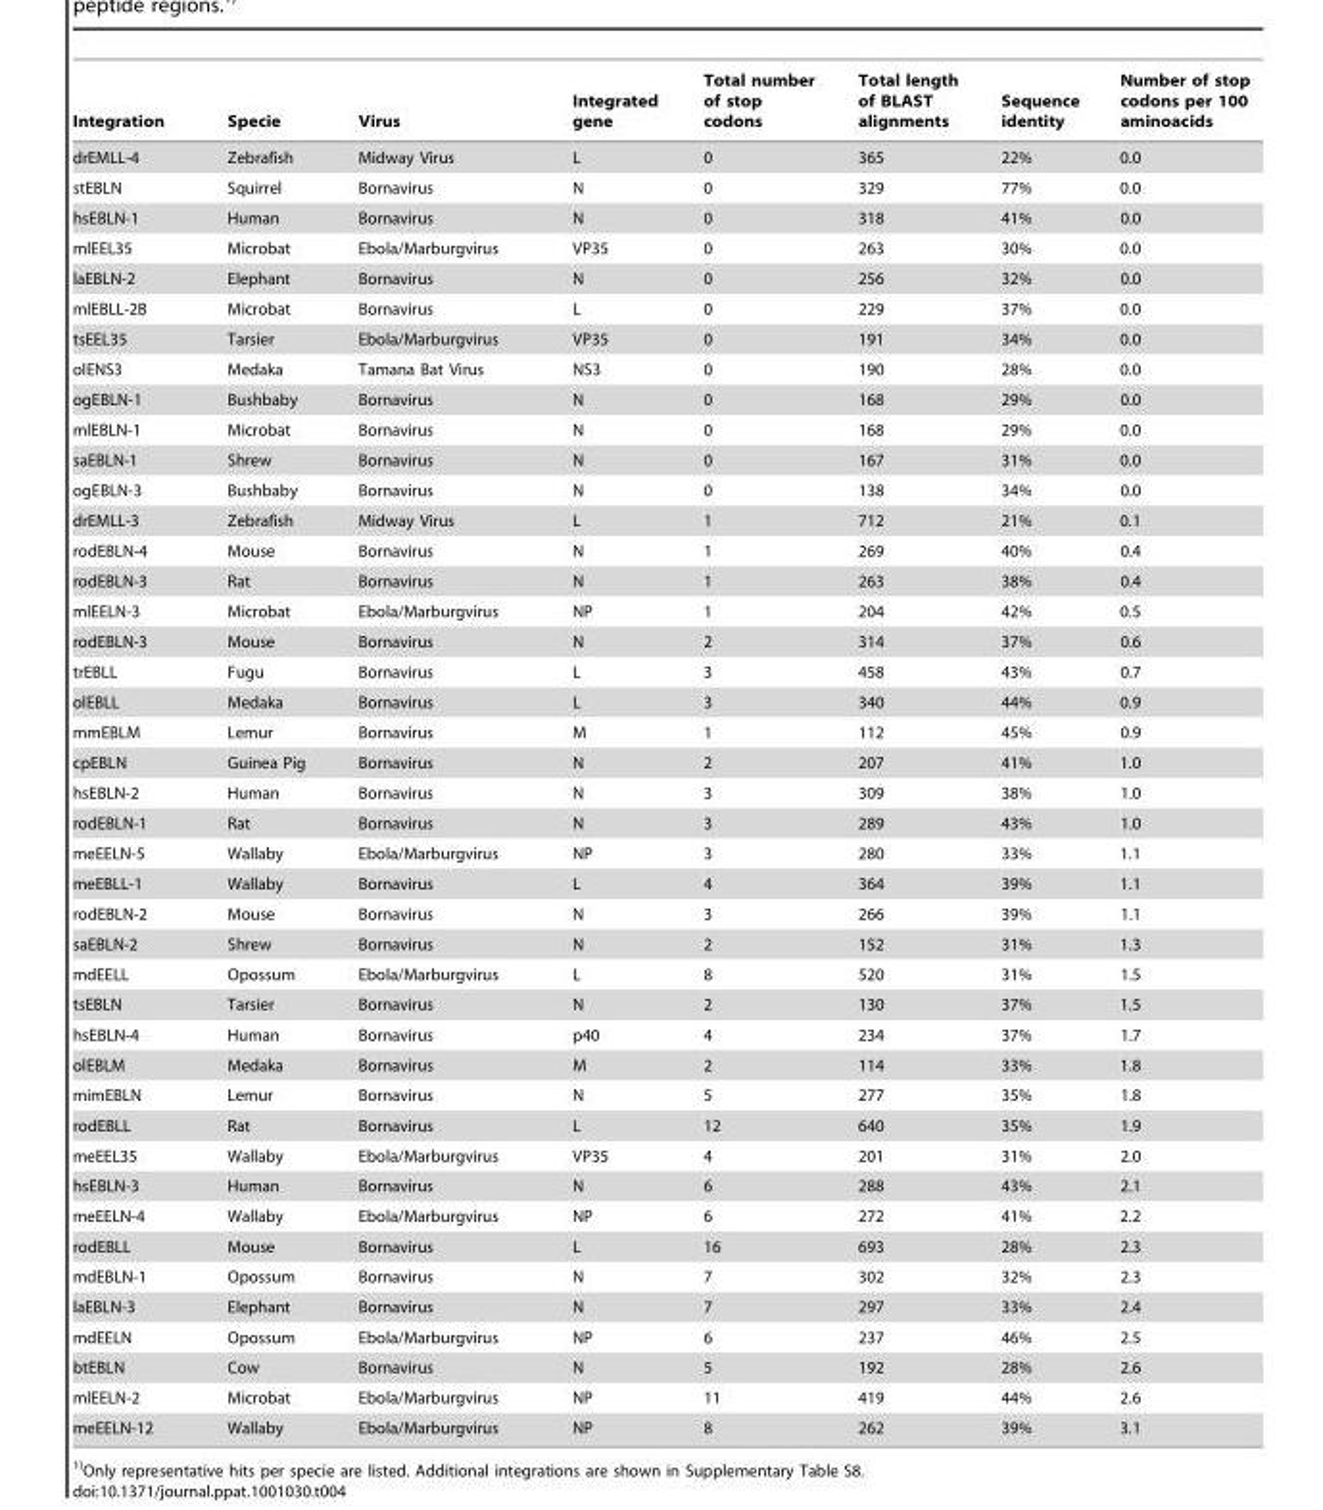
<table><thead><tr><td>Integration</td><td>Specie</td><td>Virus</td><td>Integrated gene</td><td>Total number of stop codons</td><td>Total length of BLAST alignments</td><td>Sequence identity</td><td>Number of stop codons per 100 aminoacids</td></tr></thead><tbody><tr><td>drEMLL-4</td><td>Zebrafish</td><td>Midway Virus</td><td>L</td><td>0</td><td>365</td><td>22%</td><td>0.0</td></tr><tr><td>stEBLN</td><td>Squirrel</td><td>Bornavirus</td><td>N</td><td>0</td><td>329</td><td>77%</td><td>0.0</td></tr><tr><td>hsEBLN-1</td><td>Human</td><td>Bornavirus</td><td>N</td><td>0</td><td>318</td><td>41%</td><td>0.0</td></tr><tr><td>mlEEL35</td><td>Microbat</td><td>Ebola/Marburgvirus</td><td>VP35</td><td>0</td><td>263</td><td>30%</td><td>0.0</td></tr><tr><td>laEBLN-2</td><td>Elephant</td><td>Bornavirus</td><td>N</td><td>0</td><td>256</td><td>32%</td><td>0.0</td></tr><tr><td>mlEBLL-2B</td><td>Microbat</td><td>Bornavirus</td><td>L</td><td>0</td><td>229</td><td>37%</td><td>0.0</td></tr><tr><td>tsEEL35</td><td>Tarsier</td><td>Ebola/Marburgvirus</td><td>VP35</td><td>0</td><td>191</td><td>34%</td><td>0.0</td></tr><tr><td>olENS3</td><td>Medaka</td><td>Tamana Bat Virus</td><td>NS3</td><td>0</td><td>190</td><td>28%</td><td>0.0</td></tr><tr><td>ogEBLN-1</td><td>Bushbaby</td><td>Bornavirus</td><td>N</td><td>0</td><td>168</td><td>29%</td><td>0.0</td></tr><tr><td>mlEBLN-1</td><td>Microbat</td><td>Bornavirus</td><td>N</td><td>0</td><td>168</td><td>29%</td><td>0.0</td></tr><tr><td>saEBLN-1</td><td>Shrew</td><td>Bornavirus</td><td>N</td><td>0</td><td>167</td><td>31%</td><td>0.0</td></tr><tr><td>ogEBLN-3</td><td>Bushbaby</td><td>Bornavirus</td><td>N</td><td>0</td><td>138</td><td>34%</td><td>0.0</td></tr><tr><td>drEMLL-3</td><td>Zebrafish</td><td>Midway Virus</td><td>L</td><td>1</td><td>712</td><td>21%</td><td>0.1</td></tr><tr><td>rodEBLN-4</td><td>Mouse</td><td>Bornavirus</td><td>N</td><td>1</td><td>269</td><td>40%</td><td>0.4</td></tr><tr><td>rodEBLN-3</td><td>Rat</td><td>Bornavirus</td><td>N</td><td>1</td><td>263</td><td>38%</td><td>0.4</td></tr><tr><td>mlEELN-3</td><td>Microbat</td><td>Ebola/Marburgvirus</td><td>NP</td><td>1</td><td>204</td><td>42%</td><td>0.5</td></tr><tr><td>rodEBLN-3</td><td>Mouse</td><td>Bornavirus</td><td>N</td><td>2</td><td>314</td><td>37%</td><td>0.6</td></tr><tr><td>trEBLL</td><td>Fugu</td><td>Bornavirus</td><td>L</td><td>3</td><td>458</td><td>43%</td><td>0.7</td></tr><tr><td>olEBLL</td><td>Medaka</td><td>Bornavirus</td><td>L</td><td>3</td><td>340</td><td>44%</td><td>0.9</td></tr><tr><td>mmEBLM</td><td>Lemur</td><td>Bornavirus</td><td>M</td><td>1</td><td>112</td><td>45%</td><td>0.9</td></tr><tr><td>cpEBLN</td><td>Guinea Pig</td><td>Bornavirus</td><td>N</td><td>2</td><td>207</td><td>41%</td><td>1.0</td></tr><tr><td>hsEBLN-2</td><td>Human</td><td>Bornavirus</td><td>N</td><td>3</td><td>309</td><td>38%</td><td>1.0</td></tr><tr><td>rodEBLN-1</td><td>Rat</td><td>Bornavirus</td><td>N</td><td>3</td><td>289</td><td>43%</td><td>1.0</td></tr><tr><td>meEELN-5</td><td>Wallaby</td><td>Ebola/Marburgvirus</td><td>NP</td><td>3</td><td>280</td><td>33%</td><td>1.1</td></tr><tr><td>meEBLL-1</td><td>Wallaby</td><td>Bornavirus</td><td>L</td><td>4</td><td>364</td><td>39%</td><td>1.1</td></tr><tr><td>rodEBLN-2</td><td>Mouse</td><td>Bornavirus</td><td>N</td><td>3</td><td>266</td><td>39%</td><td>1.1</td></tr><tr><td>saEBLN-2</td><td>Shrew</td><td>Bornavirus</td><td>N</td><td>2</td><td>152</td><td>31%</td><td>1.3</td></tr><tr><td>mdEELL</td><td>Opossum</td><td>Ebola/Marburgvirus</td><td>L</td><td>8</td><td>520</td><td>31%</td><td>1.5</td></tr><tr><td>tsEBLN</td><td>Tarsier</td><td>Bornavirus</td><td>N</td><td>2</td><td>130</td><td>37%</td><td>1.5</td></tr><tr><td>hsEBLN-4</td><td>Human</td><td>Bornavirus</td><td>p40</td><td>4</td><td>234</td><td>37%</td><td>1.7</td></tr><tr><td>olEBLM</td><td>Medaka</td><td>Bornavirus</td><td>M</td><td>2</td><td>114</td><td>33%</td><td>1.8</td></tr><tr><td>mimEBLN</td><td>Lemur</td><td>Bornavirus</td><td>N</td><td>5</td><td>277</td><td>35%</td><td>1.8</td></tr><tr><td>rodEBLL</td><td>Rat</td><td>Bornavirus</td><td>L</td><td>12</td><td>640</td><td>35%</td><td>1.9</td></tr><tr><td>meEEL35</td><td>Wallaby</td><td>Ebola/Marburgvirus</td><td>VP35</td><td>4</td><td>201</td><td>31%</td><td>2.0</td></tr><tr><td>hsEBLN-3</td><td>Human</td><td>Bornavirus</td><td>N</td><td>6</td><td>288</td><td>43%</td><td>2.1</td></tr><tr><td>meEELN-4</td><td>Wallaby</td><td>Ebola/Marburgvirus</td><td>NP</td><td>6</td><td>272</td><td>41%</td><td>2.2</td></tr><tr><td>rodEBLL</td><td>Mouse</td><td>Bornavirus</td><td>L</td><td>16</td><td>693</td><td>28%</td><td>2.3</td></tr><tr><td>mdEBLN-1</td><td>Opossum</td><td>Bornavirus</td><td>N</td><td>7</td><td>302</td><td>32%</td><td>2.3</td></tr><tr><td>laEBLN-3</td><td>Elephant</td><td>Bornavirus</td><td>N</td><td>7</td><td>297</td><td>33%</td><td>2.4</td></tr><tr><td>mdEELN</td><td>Opossum</td><td>Ebola/Marburgvirus</td><td>NP</td><td>6</td><td>237</td><td>46%</td><td>2.5</td></tr><tr><td>btEBLN</td><td>Cow</td><td>Bornavirus</td><td>N</td><td>5</td><td>192</td><td>28%</td><td>2.6</td></tr><tr><td>mlEELN-2</td><td>Microbat</td><td>Ebola/Marburgvirus</td><td>NP</td><td>11</td><td>419</td><td>44%</td><td>2.6</td></tr><tr><td>meEELN-12</td><td>Wallaby</td><td>Ebola/Marburgvirus</td><td>NP</td><td>8</td><td>262</td><td>39%</td><td>3.1</td></tr></tbody></table>